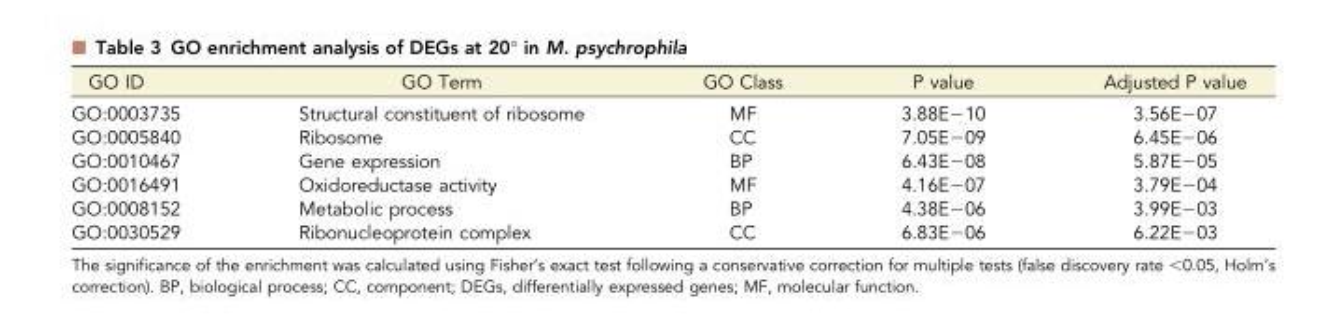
<table><thead><tr><td>GO ID</td><td>GO Term</td><td>GO Class</td><td>P value</td><td>Adjusted P value</td></tr></thead><tbody><tr><td>GO:0003735</td><td>Structural constituent of ribosome</td><td>MF</td><td>3.88E−10</td><td>3.56E−07</td></tr><tr><td>GO:0005840</td><td>Ribosome</td><td>CC</td><td>7.05E−09</td><td>6.45E−06</td></tr><tr><td>GO:0010467</td><td>Gene expression</td><td>BP</td><td>6.43E−08</td><td>5.87E−05</td></tr><tr><td>GO:0016491</td><td>Oxidoreductase activity</td><td>MF</td><td>4.16E−07</td><td>3.79E−04</td></tr><tr><td>GO:0008152</td><td>Metabolic process</td><td>BP</td><td>4.38E−06</td><td>3.99E−03</td></tr><tr><td>GO:0030529</td><td>Ribonucleoprotein complex</td><td>CC</td><td>6.83E−06</td><td>6.22E−03</td></tr></tbody></table>